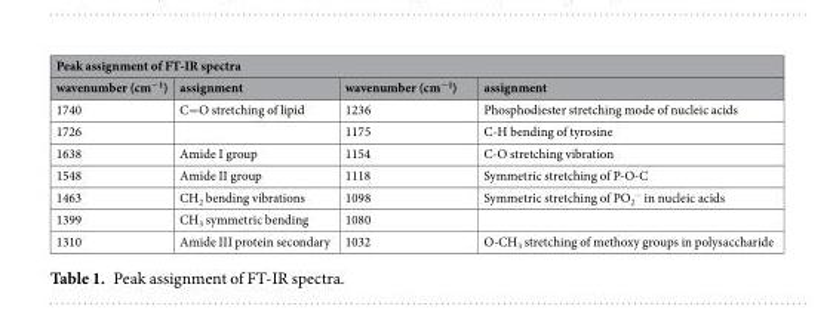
<table><thead><tr><td colspan="4">Peak assignment of FT-IR spectra</td></tr><tr><td>wavenumber (cm<sup>−1</sup>)</td><td>assignment</td><td>wavenumber (cm<sup>−1</sup>)</td><td>assignment</td></tr></thead><tbody><tr><td>1740</td><td>C=O stretching of lipid</td><td>1236</td><td>Phosphodiester stretching mode of nucleic acids</td></tr><tr><td>1726</td><td></td><td>1175</td><td>C-H bending of tyrosine</td></tr><tr><td>1638</td><td>Amide I group</td><td>1154</td><td>C-O stretching vibration</td></tr><tr><td>1548</td><td>Amide II group</td><td>1118</td><td>Symmetric stretching of P-O-C</td></tr><tr><td>1463</td><td>CH<sub>2</sub> bending vibrations</td><td>1098</td><td>Symmetric stretching of PO<sub>2</sub> <sup>−</sup> in nucleic acids</td></tr><tr><td>1399</td><td>CH<sub>3</sub> symmetric bending</td><td>1080</td><td></td></tr><tr><td>1310</td><td>Amide III protein secondary</td><td>1032</td><td>O-CH<sub>3</sub> stretching of methoxy groups in polysaccharide</td></tr></tbody></table>